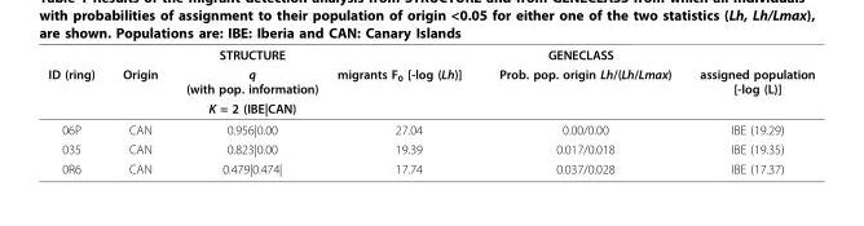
<table><thead><tr><td rowspan="3">ID (ring)</td><td rowspan="3">Origin</td><td rowspan="3">STRUCTURE q (with pop. information) K = 2 (IBE|CAN)</td><td colspan="3">GENECLASS</td></tr><tr><td rowspan="2">migrants F<sub>0</sub> [-log (Lh)]</td><td rowspan="2">Prob. pop. origin Lh/(Lh/Lmax)</td><td rowspan="2">assigned population [-log (L)]</td></tr><tr></tr></thead><tbody><tr><td>06P</td><td>CAN</td><td>0.956|0.00</td><td>27.04</td><td>0.00/0.00</td><td>IBE (19.29)</td></tr><tr><td>035</td><td>CAN</td><td>0.823|0.00</td><td>19.39</td><td>0.017/0.018</td><td>IBE (19.35)</td></tr><tr><td>0R6</td><td>CAN</td><td>0.479|0.474|</td><td>17.74</td><td>0.037/0.028</td><td>IBE (17.37)</td></tr></tbody></table>